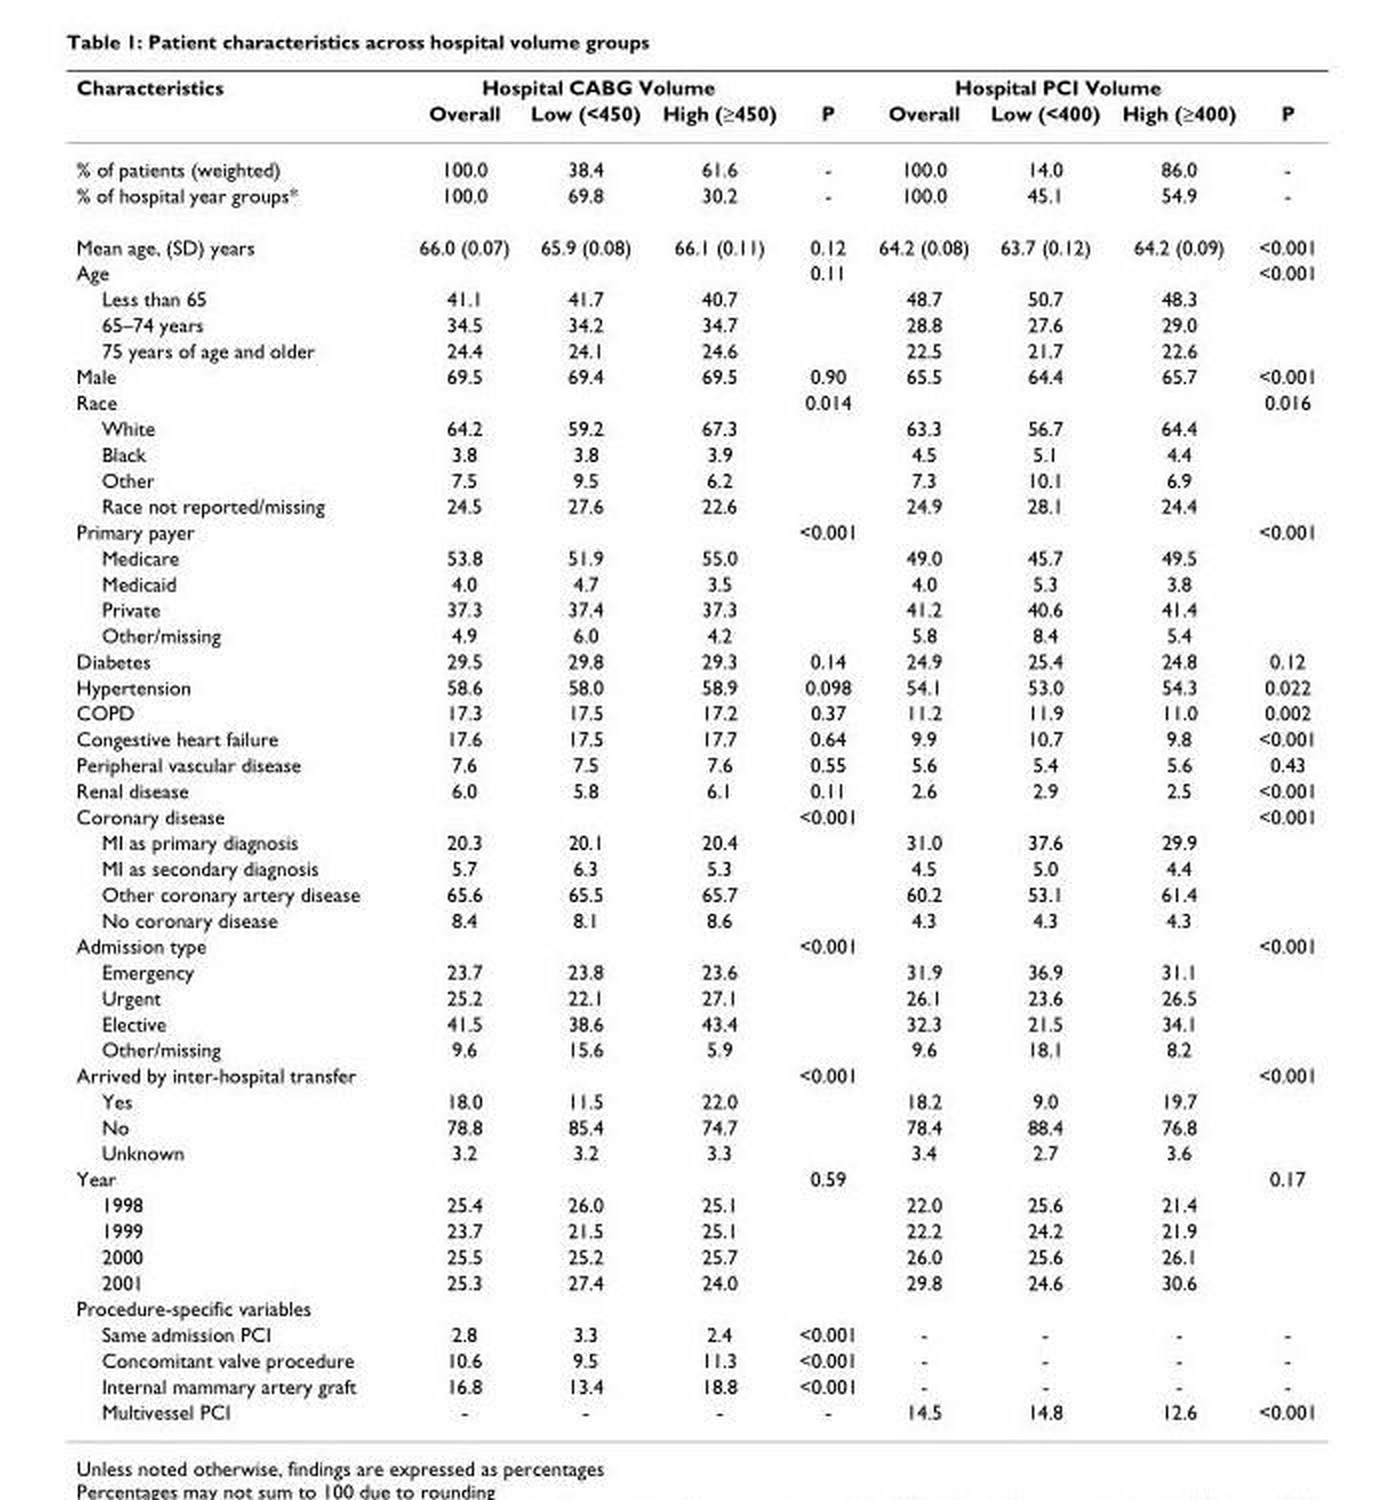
<table><thead><tr><td rowspan="2">Characteristics</td><td colspan="3">Hospital CABG Volume</td><td rowspan="2">P</td><td colspan="3">Hospital PCI Volume</td><td rowspan="2">P</td></tr><tr><td>Overall</td><td>Low (&lt;450)</td><td>High (≥450)</td><td>Overall</td><td>Low (&lt;400)</td><td>High (≥400)</td></tr></thead><tbody><tr><td>% of patients (weighted)</td><td>100.0</td><td>38.4</td><td>61.6</td><td>-</td><td>100.0</td><td>14.0</td><td>86.0</td><td>-</td></tr><tr><td>% of hospital year groups*</td><td>100.0</td><td>69.8</td><td>30.2</td><td>-</td><td>100.0</td><td>45.1</td><td>54.9</td><td>-</td></tr><tr><td>Mean age, (SD) years</td><td>66.0 (0.07)</td><td>65.9 (0.08)</td><td>66.1 (0.11)</td><td>0.12</td><td>64.2 (0.08)</td><td>63.7 (0.12)</td><td>64.2 (0.09)</td><td>&lt;0.001</td></tr><tr><td>Age</td><td></td><td></td><td></td><td>0.11</td><td></td><td></td><td></td><td>&lt;0.001</td></tr><tr><td>Less than 65</td><td>41.1</td><td>41.7</td><td>40.7</td><td></td><td>48.7</td><td>50.7</td><td>48.3</td><td></td></tr><tr><td>65–74 years</td><td>34.5</td><td>34.2</td><td>34.7</td><td></td><td>28.8</td><td>27.6</td><td>29.0</td><td></td></tr><tr><td>75 years of age and older</td><td>24.4</td><td>24.1</td><td>24.6</td><td></td><td>22.5</td><td>21.7</td><td>22.6</td><td></td></tr><tr><td>Male</td><td>69.5</td><td>69.4</td><td>69.5</td><td>0.90</td><td>65.5</td><td>64.4</td><td>65.7</td><td>&lt;0.001</td></tr><tr><td>Race</td><td></td><td></td><td></td><td>0.014</td><td></td><td></td><td></td><td>0.016</td></tr><tr><td>White</td><td>64.2</td><td>59.2</td><td>67.3</td><td></td><td>63.3</td><td>56.7</td><td>64.4</td><td></td></tr><tr><td>Black</td><td>3.8</td><td>3.8</td><td>3.9</td><td></td><td>4.5</td><td>5.1</td><td>4.4</td><td></td></tr><tr><td>Other</td><td>7.5</td><td>9.5</td><td>6.2</td><td></td><td>7.3</td><td>10.1</td><td>6.9</td><td></td></tr><tr><td>Race not reported/missing</td><td>24.5</td><td>27.6</td><td>22.6</td><td></td><td>24.9</td><td>28.1</td><td>24.4</td><td></td></tr><tr><td>Primary payer</td><td></td><td></td><td></td><td>&lt;0.001</td><td></td><td></td><td></td><td>&lt;0.001</td></tr><tr><td>Medicare</td><td>53.8</td><td>51.9</td><td>55.0</td><td></td><td>49.0</td><td>45.7</td><td>49.5</td><td></td></tr><tr><td>Medicaid</td><td>4.0</td><td>4.7</td><td>3.5</td><td></td><td>4.0</td><td>5.3</td><td>3.8</td><td></td></tr><tr><td>Private</td><td>37.3</td><td>37.4</td><td>37.3</td><td></td><td>41.2</td><td>40.6</td><td>41.4</td><td></td></tr><tr><td>Other/missing</td><td>4.9</td><td>6.0</td><td>4.2</td><td></td><td>5.8</td><td>8.4</td><td>5.4</td><td></td></tr><tr><td>Diabetes</td><td>29.5</td><td>29.8</td><td>29.3</td><td>0.14</td><td>24.9</td><td>25.4</td><td>24.8</td><td>0.12</td></tr><tr><td>Hypertension</td><td>58.6</td><td>58.0</td><td>58.9</td><td>0.098</td><td>54.1</td><td>53.0</td><td>54.3</td><td>0.022</td></tr><tr><td>COPD</td><td>17.3</td><td>17.5</td><td>17.2</td><td>0.37</td><td>11.2</td><td>11.9</td><td>11.0</td><td>0.002</td></tr><tr><td>Congestive heart failure</td><td>17.6</td><td>17.5</td><td>17.7</td><td>0.64</td><td>9.9</td><td>10.7</td><td>9.8</td><td>&lt;0.001</td></tr><tr><td>Peripheral vascular disease</td><td>7.6</td><td>7.5</td><td>7.6</td><td>0.55</td><td>5.6</td><td>5.4</td><td>5.6</td><td>0.43</td></tr><tr><td>Renal disease</td><td>6.0</td><td>5.8</td><td>6.1</td><td>0.11</td><td>2.6</td><td>2.9</td><td>2.5</td><td>&lt;0.001</td></tr><tr><td>Coronary disease</td><td></td><td></td><td></td><td>&lt;0.001</td><td></td><td></td><td></td><td>&lt;0.001</td></tr><tr><td>MI as primary diagnosis</td><td>20.3</td><td>20.1</td><td>20.4</td><td></td><td>31.0</td><td>37.6</td><td>29.9</td><td></td></tr><tr><td>MI as secondary diagnosis</td><td>5.7</td><td>6.3</td><td>5.3</td><td></td><td>4.5</td><td>5.0</td><td>4.4</td><td></td></tr><tr><td>Other coronary artery disease</td><td>65.6</td><td>65.5</td><td>65.7</td><td></td><td>60.2</td><td>53.1</td><td>61.4</td><td></td></tr><tr><td>No coronary disease</td><td>8.4</td><td>8.1</td><td>8.6</td><td></td><td>4.3</td><td>4.3</td><td>4.3</td><td></td></tr><tr><td>Admission type</td><td></td><td></td><td></td><td>&lt;0.001</td><td></td><td></td><td></td><td>&lt;0.001</td></tr><tr><td>Emergency</td><td>23.7</td><td>23.8</td><td>23.6</td><td></td><td>31.9</td><td>36.9</td><td>31.1</td><td></td></tr><tr><td>Urgent</td><td>25.2</td><td>22.1</td><td>27.1</td><td></td><td>26.1</td><td>23.6</td><td>26.5</td><td></td></tr><tr><td>Elective</td><td>41.5</td><td>38.6</td><td>43.4</td><td></td><td>32.3</td><td>21.5</td><td>34.1</td><td></td></tr><tr><td>Other/missing</td><td>9.6</td><td>15.6</td><td>5.9</td><td></td><td>9.6</td><td>18.1</td><td>8.2</td><td></td></tr><tr><td>Arrived by inter-hospital transfer</td><td></td><td></td><td></td><td>&lt;0.001</td><td></td><td></td><td></td><td>&lt;0.001</td></tr><tr><td>Yes</td><td>18.0</td><td>11.5</td><td>22.0</td><td></td><td>18.2</td><td>9.0</td><td>19.7</td><td></td></tr><tr><td>No</td><td>78.8</td><td>85.4</td><td>74.7</td><td></td><td>78.4</td><td>88.4</td><td>76.8</td><td></td></tr><tr><td>Unknown</td><td>3.2</td><td>3.2</td><td>3.3</td><td></td><td>3.4</td><td>2.7</td><td>3.6</td><td></td></tr><tr><td>Year</td><td></td><td></td><td></td><td>0.59</td><td></td><td></td><td></td><td>0.17</td></tr><tr><td>1998</td><td>25.4</td><td>26.0</td><td>25.1</td><td></td><td>22.0</td><td>25.6</td><td>21.4</td><td></td></tr><tr><td>1999</td><td>23.7</td><td>21.5</td><td>25.1</td><td></td><td>22.2</td><td>24.2</td><td>21.9</td><td></td></tr><tr><td>2000</td><td>25.5</td><td>25.2</td><td>25.7</td><td></td><td>26.0</td><td>25.6</td><td>26.1</td><td></td></tr><tr><td>2001</td><td>25.3</td><td>27.4</td><td>24.0</td><td></td><td>29.8</td><td>24.6</td><td>30.6</td><td></td></tr><tr><td colspan="9">Procedure-specific variables</td></tr><tr><td>Same admission PCI</td><td>2.8</td><td>3.3</td><td>2.4</td><td>&lt;0.001</td><td>-</td><td>-</td><td>-</td><td>-</td></tr><tr><td>Concomitant valve procedure</td><td>10.6</td><td>9.5</td><td>11.3</td><td>&lt;0.001</td><td>-</td><td>-</td><td>-</td><td>-</td></tr><tr><td>Internal mammary artery graft</td><td>16.8</td><td>13.4</td><td>18.8</td><td>&lt;0.001</td><td>-</td><td>-</td><td>-</td><td>-</td></tr><tr><td>Multivessel PCI</td><td>-</td><td>-</td><td>-</td><td>-</td><td>14.5</td><td>14.8</td><td>12.6</td><td>&lt;0.001</td></tr></tbody></table>